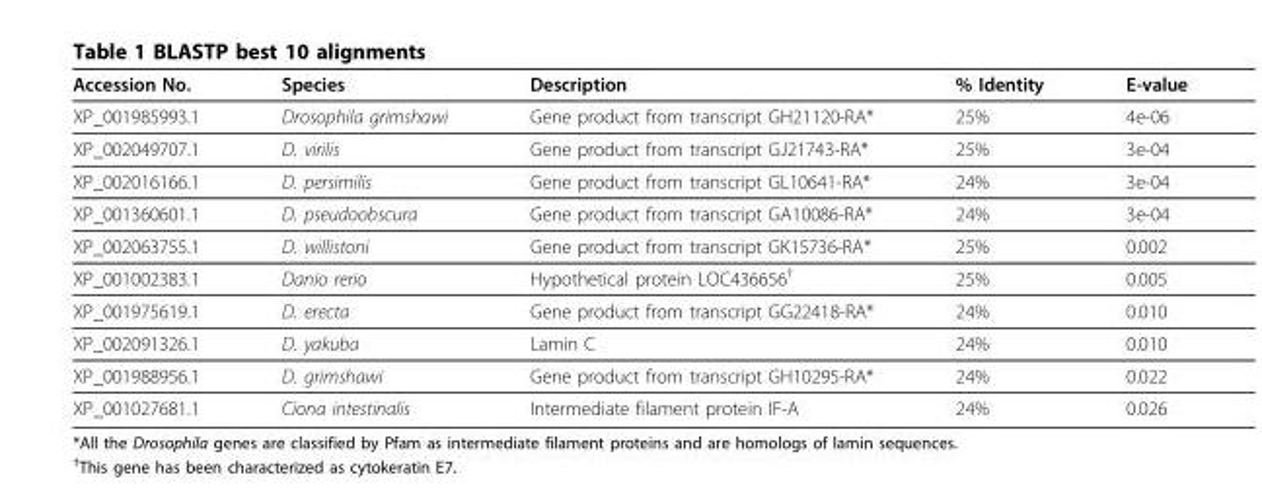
<table><thead><tr><td>Accession No.</td><td>Species</td><td>Description</td><td>% Identity</td><td>E-value</td></tr></thead><tbody><tr><td>XP_001985993.1</td><td>Drosophila grimshawi</td><td>Gene product from transcript GH21120-RA*</td><td>25%</td><td>4e-06</td></tr><tr><td>XP_002049707.1</td><td>D. virilis</td><td>Gene product from transcript GJ21743-RA*</td><td>25%</td><td>3e-04</td></tr><tr><td>XP_002016166.1</td><td>D. persimilis</td><td>Gene product from transcript GL10641-RA*</td><td>24%</td><td>3e-04</td></tr><tr><td>XP_001360601.1</td><td>D. pseudoobscura</td><td>Gene product from transcript GA10086-RA*</td><td>24%</td><td>3e-04</td></tr><tr><td>XP_002063755.1</td><td>D. willistoni</td><td>Gene product from transcript GK15736-RA*</td><td>25%</td><td>0.002</td></tr><tr><td>XP_001002383.1</td><td>Danio rerio</td><td>Hypothetical protein LOC436656<sup>†</sup></td><td>25%</td><td>0.005</td></tr><tr><td>XP_001975619.1</td><td>D. erecta</td><td>Gene product from transcript GG22418-RA*</td><td>24%</td><td>0.010</td></tr><tr><td>XP_002091326.1</td><td>D. yakuba</td><td>Lamin C</td><td>24%</td><td>0.010</td></tr><tr><td>XP_001988956.1</td><td>D. grimshawi</td><td>Gene product from transcript GH10295-RA*</td><td>24%</td><td>0.022</td></tr><tr><td>XP_001027681.1</td><td>Ciona intestinalis</td><td>Intermediate filament protein IF-A</td><td>24%</td><td>0.026</td></tr></tbody></table>